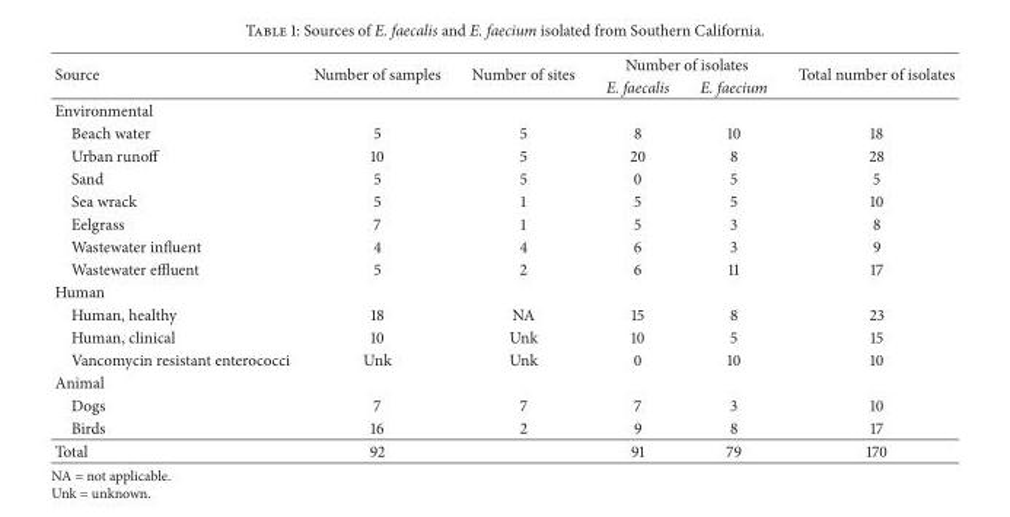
<table><thead><tr><td rowspan="2">Source</td><td rowspan="2">Number of samples</td><td rowspan="2">Number of sites</td><td colspan="2">Number of isolates</td><td rowspan="2">Total number of isolates</td></tr><tr><td>E. faecalis</td><td>E. faecium</td></tr></thead><tbody><tr><td colspan="6">Environmental</td></tr><tr><td>Beach water</td><td>5</td><td>5</td><td>8</td><td>10</td><td>18</td></tr><tr><td>Urban runoff</td><td>10</td><td>5</td><td>20</td><td>8</td><td>28</td></tr><tr><td>Sand</td><td>5</td><td>5</td><td>0</td><td>5</td><td>5</td></tr><tr><td>Sea wrack</td><td>5</td><td>1</td><td>5</td><td>5</td><td>10</td></tr><tr><td>Eelgrass</td><td>7</td><td>1</td><td>5</td><td>3</td><td>8</td></tr><tr><td>Wastewater influent</td><td>4</td><td>4</td><td>6</td><td>3</td><td>9</td></tr><tr><td>Wastewater effluent</td><td>5</td><td>2</td><td>6</td><td>11</td><td>17</td></tr><tr><td colspan="6">Human</td></tr><tr><td>Human, healthy</td><td>18</td><td>NA</td><td>15</td><td>8</td><td>23</td></tr><tr><td>Human, clinical</td><td>10</td><td>Unk</td><td>10</td><td>5</td><td>15</td></tr><tr><td>Vancomycin resistant enterococci</td><td>Unk</td><td>Unk</td><td>0</td><td>10</td><td>10</td></tr><tr><td colspan="6">Animal</td></tr><tr><td>Dogs</td><td>7</td><td>7</td><td>7</td><td>3</td><td>10</td></tr><tr><td>Birds</td><td>16</td><td>2</td><td>9</td><td>8</td><td>17</td></tr><tr><td>Total</td><td>92</td><td></td><td>91</td><td>79</td><td>170</td></tr></tbody></table>